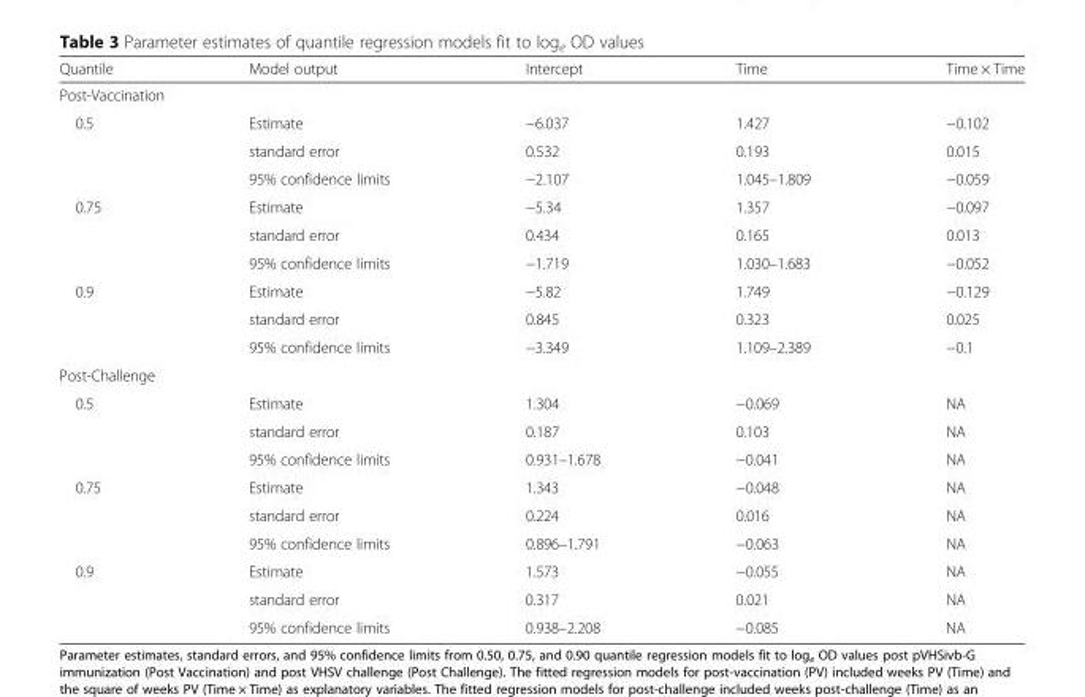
<table><thead><tr><td>Quantile</td><td>Model output</td><td>Intercept</td><td>Time</td><td>Time × Time</td></tr></thead><tbody><tr><td colspan="5">Post-Vaccination</td></tr><tr><td rowspan="3">0.5</td><td>Estimate</td><td>−6.037</td><td>1.427</td><td>−0.102</td></tr><tr><td>standard error</td><td>0.532</td><td>0.193</td><td>0.015</td></tr><tr><td>95% confidence limits</td><td>−2.107</td><td>1.045–1.809</td><td>−0.059</td></tr><tr><td rowspan="3">0.75</td><td>Estimate</td><td>−5.34</td><td>1.357</td><td>−0.097</td></tr><tr><td>standard error</td><td>0.434</td><td>0.165</td><td>0.013</td></tr><tr><td>95% confidence limits</td><td>−1.719</td><td>1.030–1.683</td><td>−0.052</td></tr><tr><td rowspan="3">0.9</td><td>Estimate</td><td>−5.82</td><td>1.749</td><td>−0.129</td></tr><tr><td>standard error</td><td>0.845</td><td>0.323</td><td>0.025</td></tr><tr><td>95% confidence limits</td><td>−3.349</td><td>1.109–2.389</td><td>−0.1</td></tr><tr><td colspan="5">Post-Challenge</td></tr><tr><td rowspan="3">0.5</td><td>Estimate</td><td>1.304</td><td>−0.069</td><td>NA</td></tr><tr><td>standard error</td><td>0.187</td><td>0.103</td><td>NA</td></tr><tr><td>95% confidence limits</td><td>0.931–1.678</td><td>−0.041</td><td>NA</td></tr><tr><td rowspan="3">0.75</td><td>Estimate</td><td>1.343</td><td>−0.048</td><td>NA</td></tr><tr><td>standard error</td><td>0.224</td><td>0.016</td><td>NA</td></tr><tr><td>95% confidence limits</td><td>0.896–1.791</td><td>−0.063</td><td>NA</td></tr><tr><td rowspan="3">0.9</td><td>Estimate</td><td>1.573</td><td>−0.055</td><td>NA</td></tr><tr><td>standard error</td><td>0.317</td><td>0.021</td><td>NA</td></tr><tr><td>95% confidence limits</td><td>0.938–2.208</td><td>−0.085</td><td>NA</td></tr></tbody></table>